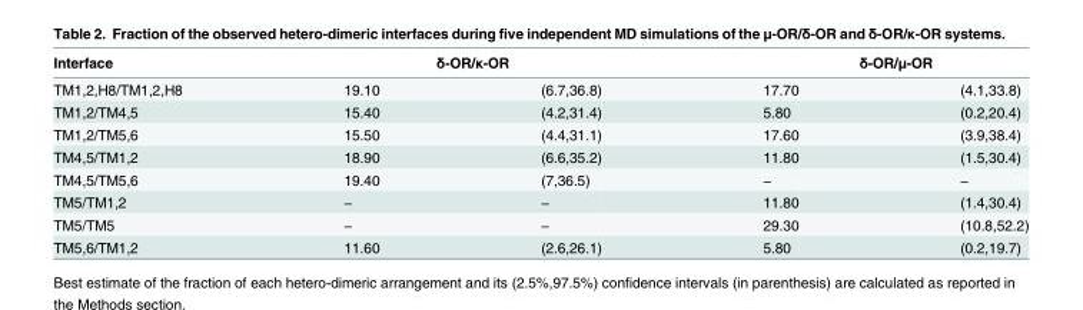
<table><thead><tr><td rowspan="2">Interface TM1,2,H8/TM1,2,H8</td><td colspan="2">δ-OR/κ-OR</td><td colspan="2">δ-OR/μ-OR</td></tr><tr><td>19.10</td><td>(6.7,36.8)</td><td>17.70</td><td>(4.1,33.8)</td></tr></thead><tbody><tr><td>TM1,2/TM4,5</td><td>15.40</td><td>(4.2,31.4)</td><td>5.80</td><td>(0.2,20.4)</td></tr><tr><td>TM1,2/TM5,6</td><td>15.50</td><td>(4.4,31.1)</td><td>17.60</td><td>(3.9,38.4)</td></tr><tr><td>TM4,5/TM1,2</td><td>18.90</td><td>(6.6,35.2)</td><td>11.80</td><td>(1.5,30.4)</td></tr><tr><td>TM4,5/TM5,6</td><td>19.40</td><td>(7,36.5)</td><td>―</td><td>―</td></tr><tr><td>TM5/TM1,2</td><td>―</td><td>―</td><td>11.80</td><td>(1.4,30.4)</td></tr><tr><td>TM5/TM5</td><td>―</td><td>―</td><td>29.30</td><td>(10.8,52.2)</td></tr><tr><td>TM5,6/TM1,2</td><td>11.60</td><td>(2.6,26.1)</td><td>5.80</td><td>(0.2,19.7)</td></tr></tbody></table>